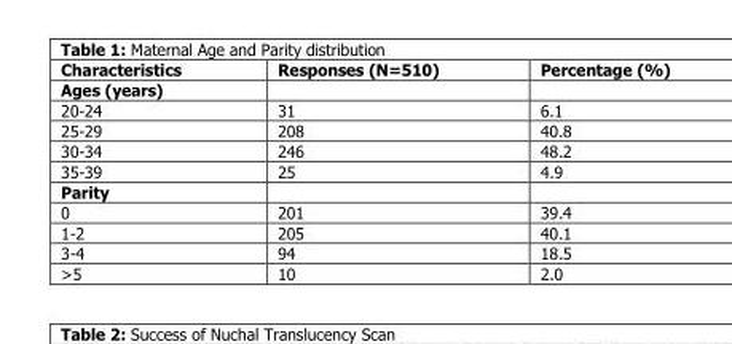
<table><thead><tr><td>Characteristics</td><td>Responses (N=510)</td><td>Percentage (%)</td></tr></thead><tbody><tr><td colspan="3">Ages (years)</td></tr><tr><td>20-24</td><td>31</td><td>6.1</td></tr><tr><td>25-29</td><td>208</td><td>40.8</td></tr><tr><td>30-34</td><td>246</td><td>48.2</td></tr><tr><td>35-39</td><td>25</td><td>4.9</td></tr><tr><td colspan="3">Parity</td></tr><tr><td>0</td><td>201</td><td>39.4</td></tr><tr><td>1-2</td><td>205</td><td>40.1</td></tr><tr><td>3-4</td><td>94</td><td>18.5</td></tr><tr><td>&gt;5</td><td>10</td><td>2.0</td></tr></tbody></table>